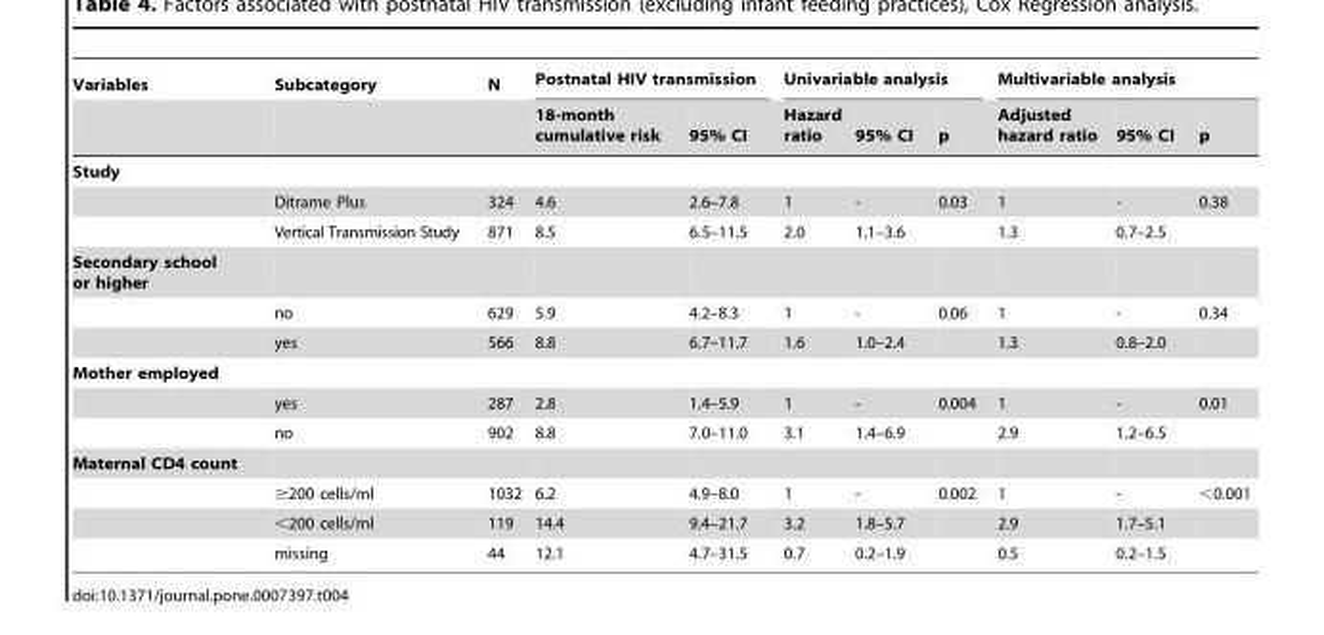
<table><thead><tr><td rowspan="2">Variables</td><td rowspan="2">Subcategory</td><td rowspan="2">N</td><td colspan="2">Postnatal HIV transmission</td><td colspan="3">Univariable analysis</td><td colspan="3">Multivariable analysis</td></tr><tr><td>18-month cumulative risk</td><td>95% CI</td><td>Hazard ratio</td><td>95% CI</td><td>p</td><td>Adjusted hazard ratio</td><td>95% CI</td><td>p</td></tr></thead><tbody><tr><td colspan="11">Study</td></tr><tr><td></td><td>Ditrame Plus</td><td>324</td><td>4.6</td><td>2.6–7.8</td><td>1</td><td>-</td><td>0.03</td><td>1</td><td>-</td><td>0.38</td></tr><tr><td></td><td>Vertical Transmission Study</td><td>871</td><td>8.5</td><td>6.5–11.5</td><td>2.0</td><td>1.1–3.6</td><td></td><td>1.3</td><td>0.7–2.5</td><td></td></tr><tr><td colspan="11">Secondary school or higher</td></tr><tr><td></td><td>no</td><td>629</td><td>5.9</td><td>4.2–8.3</td><td>1</td><td>-</td><td>0.06</td><td>1</td><td>-</td><td>0.34</td></tr><tr><td></td><td>yes</td><td>566</td><td>8.8</td><td>6.7–11.7</td><td>1.6</td><td>1.0–2.4</td><td></td><td>1.3</td><td>0.8–2.0</td><td></td></tr><tr><td colspan="11">Mother employed</td></tr><tr><td></td><td>yes</td><td>287</td><td>2.8</td><td>1.4–5.9</td><td>1</td><td>-</td><td>0.004</td><td>1</td><td>-</td><td>0.01</td></tr><tr><td></td><td>no</td><td>902</td><td>8.8</td><td>7.0–11.0</td><td>3.1</td><td>1.4–6.9</td><td></td><td>2.9</td><td>1.2–6.5</td><td></td></tr><tr><td colspan="11">Maternal CD4 count</td></tr><tr><td></td><td>≥200 cells/ml</td><td>1032</td><td>6.2</td><td>4.9–8.0</td><td>1</td><td>-</td><td>0.002</td><td>1</td><td>-</td><td>&lt;0.001</td></tr><tr><td></td><td>&lt;200 cells/ml</td><td>119</td><td>14.4</td><td>9.4–21.7</td><td>3.2</td><td>1.8–5.7</td><td></td><td>2.9</td><td>1.7–5.1</td><td></td></tr><tr><td></td><td>missing</td><td>44</td><td>12.1</td><td>4.7–31.5</td><td>0.7</td><td>0.2–1.9</td><td></td><td>0.5</td><td>0.2–1.5</td><td></td></tr></tbody></table>